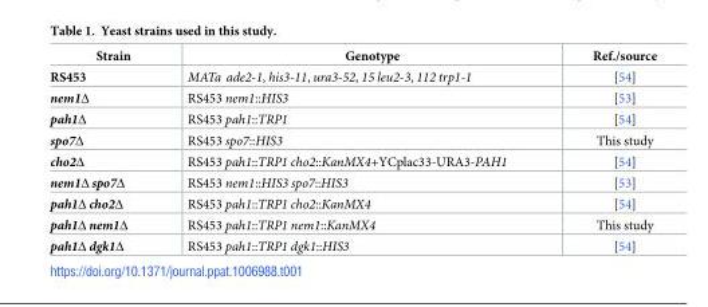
<table><thead><tr><td>Strain</td><td>Genotype</td><td>Ref./source</td></tr></thead><tbody><tr><td>RS453</td><td>MATa ade2-1, his3-11, ura3-52, 15 leu2-3, 112 trp1-1</td><td>[54]</td></tr><tr><td>nem1Δ</td><td>RS453 nem1::HIS3</td><td>[53]</td></tr><tr><td>pah1Δ</td><td>RS453 pah1::TRP1</td><td>[54]</td></tr><tr><td>spo7Δ</td><td>RS453 spo7::HIS3</td><td>This study</td></tr><tr><td>cho2Δ</td><td>RS453 pah1::TRP1 cho2::KanMX4+YCplac33-URA3-PAH1</td><td>[54]</td></tr><tr><td>nem1Δ spo7Δ</td><td>RS453 nem1::HIS3 spo7::HIS3</td><td>[53]</td></tr><tr><td>pah1Δ cho2Δ</td><td>RS453 pah1::TRP1 cho2::KanMX4</td><td>[54]</td></tr><tr><td>pah1Δ nem1Δ</td><td>RS453 pah1::TRP1 nem1::KanMX4</td><td>This study</td></tr><tr><td>pah1Δ dgk1Δ</td><td>RS453 pah1::TRP1 dgk1::HIS3</td><td>[54]</td></tr></tbody></table>